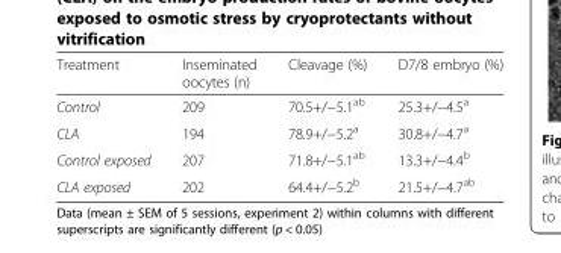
<table><thead><tr><td>Treatment</td><td>Inseminated oocytes (n)</td><td>Cleavage (%)</td><td>D7/8 embryo (%)</td></tr></thead><tbody><tr><td>Control</td><td>209</td><td>70.5+/−5.1<sup>ab</sup></td><td>25.3+/−4.5<sup>a</sup></td></tr><tr><td>CLA</td><td>194</td><td>78.9+/−5.2<sup>a</sup></td><td>30.8+/−4.7<sup>a</sup></td></tr><tr><td>Control exposed</td><td>207</td><td>71.8+/−5.1<sup>ab</sup></td><td>13.3+/−4.4<sup>b</sup></td></tr><tr><td>CLA exposed</td><td>202</td><td>64.4+/−5.2<sup>b</sup></td><td>21.5+/−4.7<sup>ab</sup></td></tr></tbody></table>